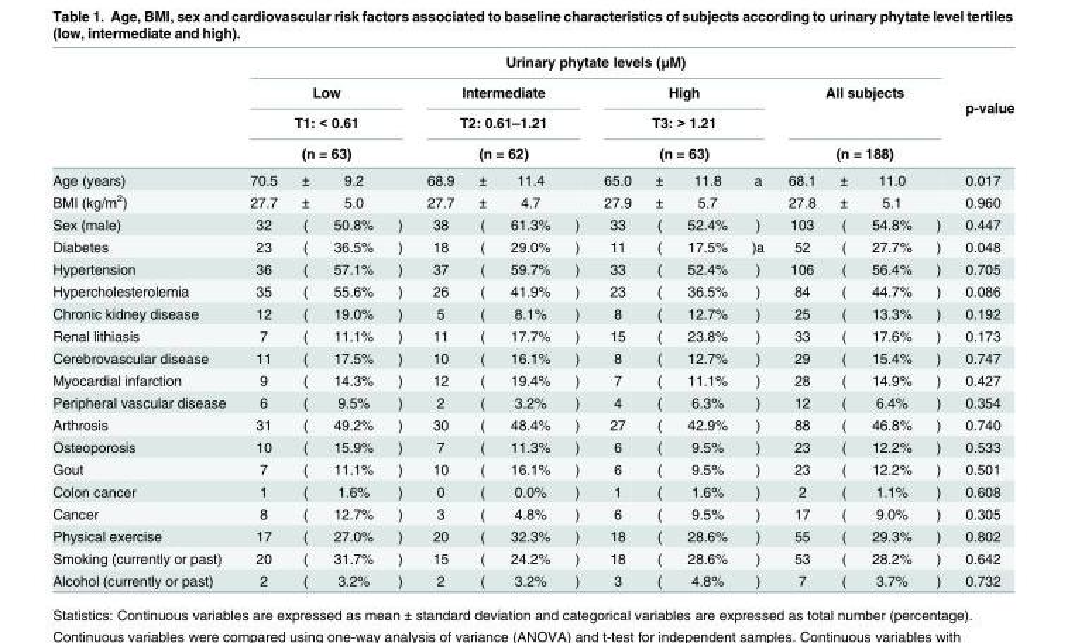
<table><thead><tr><td rowspan="5">Age (years)</td><td colspan="16">Urinary phytate levels (μM)</td><td rowspan="5">p-value 0.017</td></tr><tr><td rowspan="3" colspan="4">Low T1: &lt; 0.61 (n = 63)</td><td rowspan="3" colspan="4">Intermediate T2: 0.61–1.21 (n = 62)</td><td rowspan="3" colspan="4">High T3: &gt; 1.21 (n = 63)</td><td rowspan="3" colspan="4">All subjects (n = 188)</td></tr><tr></tr><tr></tr><tr><td>70.5</td><td>±</td><td>9.2</td><td></td><td>68.9</td><td>±</td><td>11.4</td><td></td><td>65.0</td><td>±</td><td>11.8</td><td>a</td><td>68.1</td><td>±</td><td>11.0</td><td></td></tr></thead><tbody><tr><td>BMI (kg/m<sup>2</sup>)</td><td>27.7</td><td>±</td><td>5.0</td><td></td><td>27.7</td><td>±</td><td>4.7</td><td></td><td>27.9</td><td>±</td><td>5.7</td><td></td><td>27.8</td><td>±</td><td>5.1</td><td></td><td>0.960</td></tr><tr><td>Sex (male)</td><td>32</td><td>(</td><td>50.8%</td><td>)</td><td>38</td><td>(</td><td>61.3%</td><td>)</td><td>33</td><td>(</td><td>52.4%</td><td>)</td><td>103</td><td>(</td><td>54.8%</td><td>)</td><td>0.447</td></tr><tr><td>Diabetes</td><td>23</td><td>(</td><td>36.5%</td><td>)</td><td>18</td><td>(</td><td>29.0%</td><td>)</td><td>11</td><td>(</td><td>17.5%</td><td>)a</td><td>52</td><td>(</td><td>27.7%</td><td>)</td><td>0.048</td></tr><tr><td>Hypertension</td><td>36</td><td>(</td><td>57.1%</td><td>)</td><td>37</td><td>(</td><td>59.7%</td><td>)</td><td>33</td><td>(</td><td>52.4%</td><td>)</td><td>106</td><td>(</td><td>56.4%</td><td>)</td><td>0.705</td></tr><tr><td>Hypercholesterolemia</td><td>35</td><td>(</td><td>55.6%</td><td>)</td><td>26</td><td>(</td><td>41.9%</td><td>)</td><td>23</td><td>(</td><td>36.5%</td><td>)</td><td>84</td><td>(</td><td>44.7%</td><td>)</td><td>0.086</td></tr><tr><td>Chronic kidney disease</td><td>12</td><td>(</td><td>19.0%</td><td>)</td><td>5</td><td>(</td><td>8.1%</td><td>)</td><td>8</td><td>(</td><td>12.7%</td><td>)</td><td>25</td><td>(</td><td>13.3%</td><td>)</td><td>0.192</td></tr><tr><td>Renal lithiasis</td><td>7</td><td>(</td><td>11.1%</td><td>)</td><td>11</td><td>(</td><td>17.7%</td><td>)</td><td>15</td><td>(</td><td>23.8%</td><td>)</td><td>33</td><td>(</td><td>17.6%</td><td>)</td><td>0.173</td></tr><tr><td>Cerebrovascular disease</td><td>11</td><td>(</td><td>17.5%</td><td>)</td><td>10</td><td>(</td><td>16.1%</td><td>)</td><td>8</td><td>(</td><td>12.7%</td><td>)</td><td>29</td><td>(</td><td>15.4%</td><td>)</td><td>0.747</td></tr><tr><td>Myocardial infarction</td><td>9</td><td>(</td><td>14.3%</td><td>)</td><td>12</td><td>(</td><td>19.4%</td><td>)</td><td>7</td><td>(</td><td>11.1%</td><td>)</td><td>28</td><td>(</td><td>14.9%</td><td>)</td><td>0.427</td></tr><tr><td>Peripheral vascular disease</td><td>6</td><td>(</td><td>9.5%</td><td>)</td><td>2</td><td>(</td><td>3.2%</td><td>)</td><td>4</td><td>(</td><td>6.3%</td><td>)</td><td>12</td><td>(</td><td>6.4%</td><td>)</td><td>0.354</td></tr><tr><td>Arthrosis</td><td>31</td><td>(</td><td>49.2%</td><td>)</td><td>30</td><td>(</td><td>48.4%</td><td>)</td><td>27</td><td>(</td><td>42.9%</td><td>)</td><td>88</td><td>(</td><td>46.8%</td><td>)</td><td>0.740</td></tr><tr><td>Osteoporosis</td><td>10</td><td>(</td><td>15.9%</td><td>)</td><td>7</td><td>(</td><td>11.3%</td><td>)</td><td>6</td><td>(</td><td>9.5%</td><td>)</td><td>23</td><td>(</td><td>12.2%</td><td>)</td><td>0.533</td></tr><tr><td>Gout</td><td>7</td><td>(</td><td>11.1%</td><td>)</td><td>10</td><td>(</td><td>16.1%</td><td>)</td><td>6</td><td>(</td><td>9.5%</td><td>)</td><td>23</td><td>(</td><td>12.2%</td><td>)</td><td>0.501</td></tr><tr><td>Colon cancer</td><td>1</td><td>(</td><td>1.6%</td><td>)</td><td>0</td><td>(</td><td>0.0%</td><td>)</td><td>1</td><td>(</td><td>1.6%</td><td>)</td><td>2</td><td>(</td><td>1.1%</td><td>)</td><td>0.608</td></tr><tr><td>Cancer</td><td>8</td><td>(</td><td>12.7%</td><td>)</td><td>3</td><td>(</td><td>4.8%</td><td>)</td><td>6</td><td>(</td><td>9.5%</td><td>)</td><td>17</td><td>(</td><td>9.0%</td><td>)</td><td>0.305</td></tr><tr><td>Physical exercise</td><td>17</td><td>(</td><td>27.0%</td><td>)</td><td>20</td><td>(</td><td>32.3%</td><td>)</td><td>18</td><td>(</td><td>28.6%</td><td>)</td><td>55</td><td>(</td><td>29.3%</td><td>)</td><td>0.802</td></tr><tr><td>Smoking (currently or past)</td><td>20</td><td>(</td><td>31.7%</td><td>)</td><td>15</td><td>(</td><td>24.2%</td><td>)</td><td>18</td><td>(</td><td>28.6%</td><td>)</td><td>53</td><td>(</td><td>28.2%</td><td>)</td><td>0.642</td></tr><tr><td>Alcohol (currently or past)</td><td>2</td><td>(</td><td>3.2%</td><td>)</td><td>2</td><td>(</td><td>3.2%</td><td>)</td><td>3</td><td>(</td><td>4.8%</td><td>)</td><td>7</td><td>(</td><td>3.7%</td><td>)</td><td>0.732</td></tr></tbody></table>